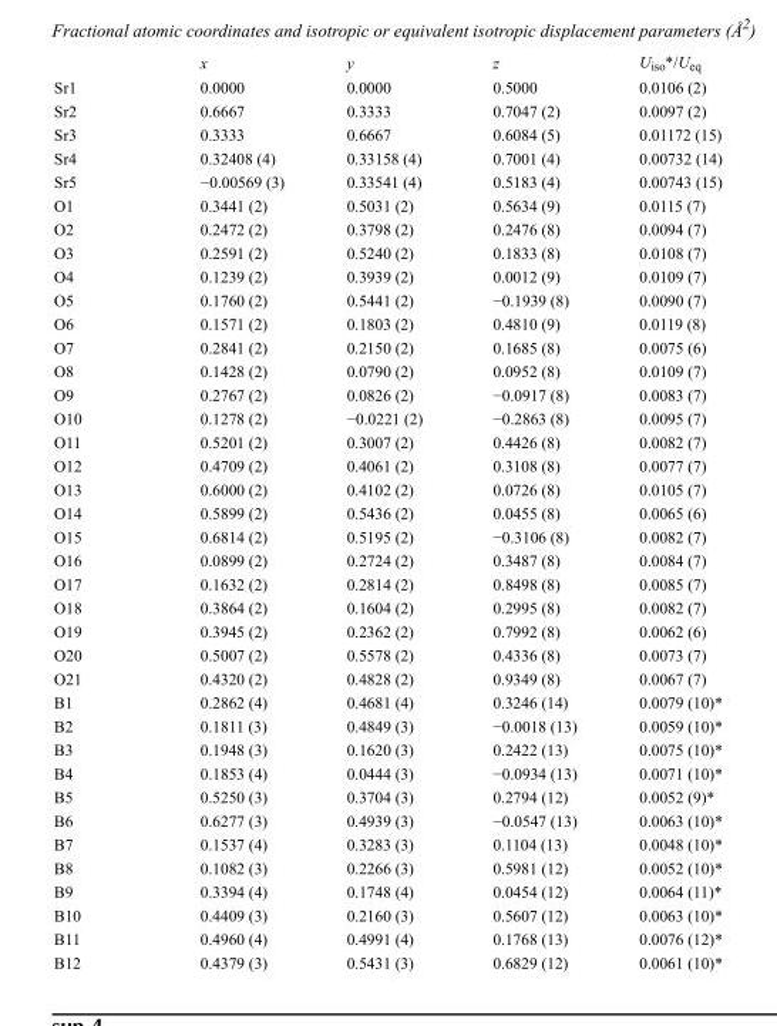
<table><thead><tr><td></td><td>x</td><td>y</td><td>z</td><td>U<sub>iso</sub>*/U<sub>eq</sub></td></tr></thead><tbody><tr><td>Sr1</td><td>0.0000</td><td>0.0000</td><td>0.5000</td><td>0.0106 (2)</td></tr><tr><td>Sr2</td><td>0.6667</td><td>0.3333</td><td>0.7047 (2)</td><td>0.0097 (2)</td></tr><tr><td>Sr3</td><td>0.3333</td><td>0.6667</td><td>0.6084 (5)</td><td>0.01172 (15)</td></tr><tr><td>Sr4</td><td>0.32408 (4)</td><td>0.33158 (4)</td><td>0.7001 (4)</td><td>0.00732 (14)</td></tr><tr><td>Sr5</td><td>−0.00569 (3)</td><td>0.33541 (4)</td><td>0.5183 (4)</td><td>0.00743 (15)</td></tr><tr><td>O1</td><td>0.3441 (2)</td><td>0.5031 (2)</td><td>0.5634 (9)</td><td>0.0115 (7)</td></tr><tr><td>O2</td><td>0.2472 (2)</td><td>0.3798 (2)</td><td>0.2476 (8)</td><td>0.0094 (7)</td></tr><tr><td>O3</td><td>0.2591 (2)</td><td>0.5240 (2)</td><td>0.1833 (8)</td><td>0.0108 (7)</td></tr><tr><td>O4</td><td>0.1239 (2)</td><td>0.3939 (2)</td><td>0.0012 (9)</td><td>0.0109 (7)</td></tr><tr><td>O5</td><td>0.1760 (2)</td><td>0.5441 (2)</td><td>−0.1939 (8)</td><td>0.0090 (7)</td></tr><tr><td>O6</td><td>0.1571 (2)</td><td>0.1803 (2)</td><td>0.4810 (9)</td><td>0.0119 (8)</td></tr><tr><td>O7</td><td>0.2841 (2)</td><td>0.2150 (2)</td><td>0.1685 (8)</td><td>0.0075 (6)</td></tr><tr><td>O8</td><td>0.1428 (2)</td><td>0.0790 (2)</td><td>0.0952 (8)</td><td>0.0109 (7)</td></tr><tr><td>O9</td><td>0.2767 (2)</td><td>0.0826 (2)</td><td>−0.0917 (8)</td><td>0.0083 (7)</td></tr><tr><td>O10</td><td>0.1278 (2)</td><td>−0.0221 (2)</td><td>−0.2863 (8)</td><td>0.0095 (7)</td></tr><tr><td>O11</td><td>0.5201 (2)</td><td>0.3007 (2)</td><td>0.4426 (8)</td><td>0.0082 (7)</td></tr><tr><td>O12</td><td>0.4709 (2)</td><td>0.4061 (2)</td><td>0.3108 (8)</td><td>0.0077 (7)</td></tr><tr><td>O13</td><td>0.6000 (2)</td><td>0.4102 (2)</td><td>0.0726 (8)</td><td>0.0105 (7)</td></tr><tr><td>O14</td><td>0.5899 (2)</td><td>0.5436 (2)</td><td>0.0455 (8)</td><td>0.0065 (6)</td></tr><tr><td>O15</td><td>0.6814 (2)</td><td>0.5195 (2)</td><td>−0.3106 (8)</td><td>0.0082 (7)</td></tr><tr><td>O16</td><td>0.0899 (2)</td><td>0.2724 (2)</td><td>0.3487 (8)</td><td>0.0084 (7)</td></tr><tr><td>O17</td><td>0.1632 (2)</td><td>0.2814 (2)</td><td>0.8498 (8)</td><td>0.0085 (7)</td></tr><tr><td>O18</td><td>0.3864 (2)</td><td>0.1604 (2)</td><td>0.2995 (8)</td><td>0.0082 (7)</td></tr><tr><td>O19</td><td>0.3945 (2)</td><td>0.2362 (2)</td><td>0.7992 (8)</td><td>0.0062 (6)</td></tr><tr><td>O20</td><td>0.5007 (2)</td><td>0.5578 (2)</td><td>0.4336 (8)</td><td>0.0073 (7)</td></tr><tr><td>O21</td><td>0.4320 (2)</td><td>0.4828 (2)</td><td>0.9349 (8)</td><td>0.0067 (7)</td></tr><tr><td>B1</td><td>0.2862 (4)</td><td>0.4681 (4)</td><td>0.3246 (14)</td><td>0.0079 (10)*</td></tr><tr><td>B2</td><td>0.1811 (3)</td><td>0.4849 (3)</td><td>−0.0018 (13)</td><td>0.0059 (10)*</td></tr><tr><td>B3</td><td>0.1948 (3)</td><td>0.1620 (3)</td><td>0.2422 (13)</td><td>0.0075 (10)*</td></tr><tr><td>B4</td><td>0.1853 (4)</td><td>0.0444 (3)</td><td>−0.0934 (13)</td><td>0.0071 (10)*</td></tr><tr><td>B5</td><td>0.5250 (3)</td><td>0.3704 (3)</td><td>0.2794 (12)</td><td>0.0052 (9)*</td></tr><tr><td>B6</td><td>0.6277 (3)</td><td>0.4939 (3)</td><td>−0.0547 (13)</td><td>0.0063 (10)*</td></tr><tr><td>B7</td><td>0.1537 (4)</td><td>0.3283 (3)</td><td>0.1104 (13)</td><td>0.0048 (10)*</td></tr><tr><td>B8</td><td>0.1082 (3)</td><td>0.2266 (3)</td><td>0.5981 (12)</td><td>0.0052 (10)*</td></tr><tr><td>B9</td><td>0.3394 (4)</td><td>0.1748 (4)</td><td>0.0454 (12)</td><td>0.0064 (11)*</td></tr><tr><td>B10</td><td>0.4409 (3)</td><td>0.2160 (3)</td><td>0.5607 (12)</td><td>0.0063 (10)*</td></tr><tr><td>B11</td><td>0.4960 (4)</td><td>0.4991 (4)</td><td>0.1768 (13)</td><td>0.0076 (12)*</td></tr><tr><td>B12</td><td>0.4379 (3)</td><td>0.5431 (3)</td><td>0.6829 (12)</td><td>0.0061 (10)*</td></tr></tbody></table>